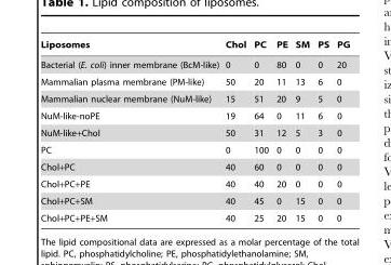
<table><thead><tr><td>Liposomes</td><td>Chol</td><td>PC</td><td>PE</td><td>SM</td><td>PS</td><td>PG</td></tr></thead><tbody><tr><td>Bacterial (E. coli) inner membrane (BcM-like)</td><td>0</td><td>0</td><td>80</td><td>0</td><td>0</td><td>20</td></tr><tr><td>Mammalian plasma membrane (PM-like)</td><td>50</td><td>20</td><td>11</td><td>13</td><td>6</td><td>0</td></tr><tr><td>Mammalian nuclear membrane (NuM-like)</td><td>15</td><td>51</td><td>20</td><td>9</td><td>5</td><td>0</td></tr><tr><td>NuM-like-noPE</td><td>19</td><td>64</td><td>0</td><td>11</td><td>6</td><td>0</td></tr><tr><td>NuM-like+Chol</td><td>50</td><td>31</td><td>12</td><td>5</td><td>3</td><td>0</td></tr><tr><td>PC</td><td>0</td><td>100</td><td>0</td><td>0</td><td>0</td><td>0</td></tr><tr><td>Chol+PC</td><td>40</td><td>60</td><td>0</td><td>0</td><td>0</td><td>0</td></tr><tr><td>Chol+PC+PE</td><td>40</td><td>40</td><td>20</td><td>0</td><td>0</td><td>0</td></tr><tr><td>Chol+PC+SM</td><td>40</td><td>45</td><td>0</td><td>15</td><td>0</td><td>0</td></tr><tr><td>Chol+PC+PE+SM</td><td>40</td><td>25</td><td>20</td><td>15</td><td>0</td><td>0</td></tr></tbody></table>